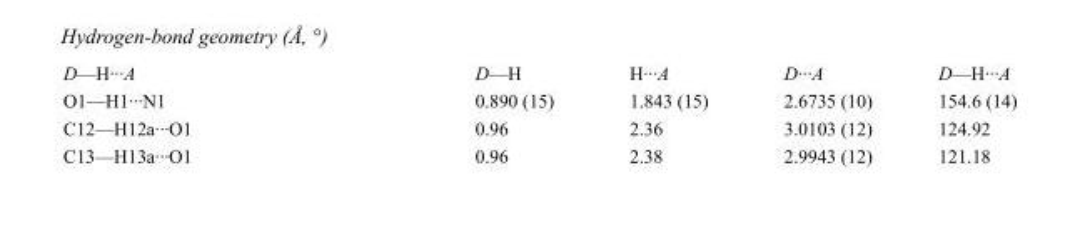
<table><tbody><tr><td>D—H···A</td><td>D—H</td><td>H···A</td><td>D···A</td><td>D—H···A</td></tr><tr><td>O1—H1···N1</td><td>0.890 (15)</td><td>1.843 (15)</td><td>2.6735 (10)</td><td>154.6 (14)</td></tr><tr><td>C12—H12a···O1</td><td>0.96</td><td>2.36</td><td>3.0103 (12)</td><td>124.92</td></tr><tr><td>C13—H13a···O1</td><td>0.96</td><td>2.38</td><td>2.9943 (12)</td><td>121.18</td></tr></tbody></table>